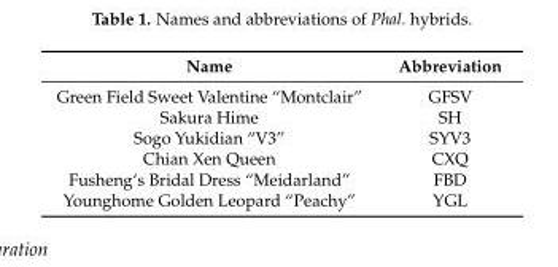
<table><thead><tr><td>Name</td><td>Abbreviation</td></tr></thead><tbody><tr><td>Green Field Sweet Valentine “Montclair”</td><td>GFSV</td></tr><tr><td>Sakura Hime</td><td>SH</td></tr><tr><td>Sogo Yukidian “V3”</td><td>SYV3</td></tr><tr><td>Chian Xen Queen</td><td>CXQ</td></tr><tr><td>Fusheng‘s Bridal Dress “Meidarland”</td><td>FBD</td></tr><tr><td>Younghome Golden Leopard “Peachy”</td><td>YGL</td></tr></tbody></table>